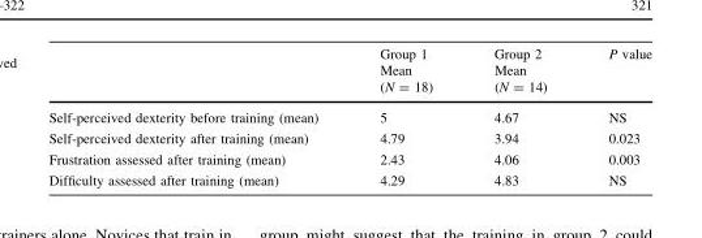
<table><thead><tr><td></td><td>Group 1 Mean (N = 18)</td><td>Group 2 Mean (N = 14)</td><td>P value</td></tr></thead><tbody><tr><td>Self-perceived dexterity before training (mean)</td><td>5</td><td>4.67</td><td>NS</td></tr><tr><td>Self-perceived dexterity after training (mean)</td><td>4.79</td><td>3.94</td><td>0.023</td></tr><tr><td>Frustration assessed after training (mean)</td><td>2.43</td><td>4.06</td><td>0.003</td></tr><tr><td>Difficulty assessed after training (mean)</td><td>4.29</td><td>4.83</td><td>NS</td></tr></tbody></table>